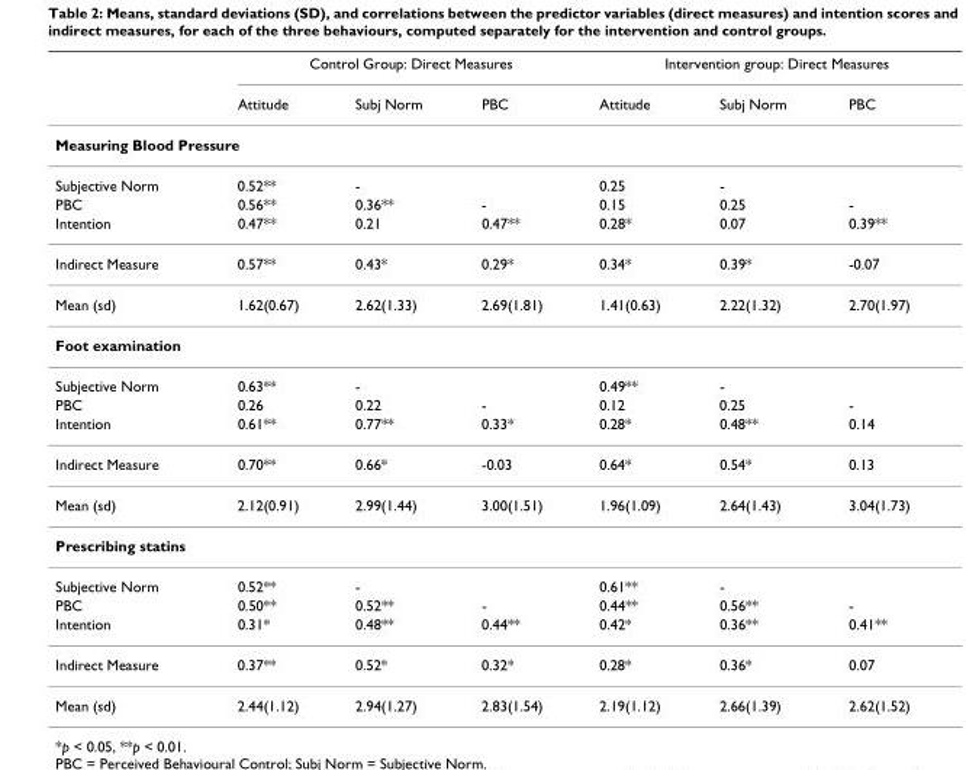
<table><thead><tr><td rowspan="2"></td><td colspan="3">Control Group: Direct Measures</td><td colspan="3">Intervention group: Direct Measures</td></tr><tr><td>Attitude</td><td>Subj Norm</td><td>PBC</td><td>Attitude</td><td>Subj Norm</td><td>PBC</td></tr></thead><tbody><tr><td colspan="7">Measuring Blood Pressure</td></tr><tr><td>Subjective Norm</td><td>0.52**</td><td>-</td><td></td><td>0.25</td><td>-</td><td></td></tr><tr><td>PBC</td><td>0.56**</td><td>0.36**</td><td>-</td><td>0.15</td><td>0.25</td><td>-</td></tr><tr><td>Intention</td><td>0.47**</td><td>0.21</td><td>0.47**</td><td>0.28*</td><td>0.07</td><td>0.39**</td></tr><tr><td>Indirect Measure</td><td>0.57**</td><td>0.43*</td><td>0.29*</td><td>0.34*</td><td>0.39*</td><td>-0.07</td></tr><tr><td>Mean (sd)</td><td>1.62(0.67)</td><td>2.62(1.33)</td><td>2.69(1.81)</td><td>1.41(0.63)</td><td>2.22(1.32)</td><td>2.70(1.97)</td></tr><tr><td colspan="7">Foot examination</td></tr><tr><td>Subjective Norm</td><td>0.63**</td><td>-</td><td></td><td>0.49**</td><td>-</td><td></td></tr><tr><td>PBC</td><td>0.26</td><td>0.22</td><td>-</td><td>0.12</td><td>0.25</td><td>-</td></tr><tr><td>Intention</td><td>0.61**</td><td>0.77**</td><td>0.33*</td><td>0.28*</td><td>0.48**</td><td>0.14</td></tr><tr><td>Indirect Measure</td><td>0.70**</td><td>0.66*</td><td>-0.03</td><td>0.64*</td><td>0.54*</td><td>0.13</td></tr><tr><td>Mean (sd)</td><td>2.12(0.91)</td><td>2.99(1.44)</td><td>3.00(1.51)</td><td>1.96(1.09)</td><td>2.64(1.43)</td><td>3.04(1.73)</td></tr><tr><td colspan="7">Prescribing statins</td></tr><tr><td>Subjective Norm</td><td>0.52**</td><td>-</td><td></td><td>0.61**</td><td>-</td><td></td></tr><tr><td>PBC</td><td>0.50**</td><td>0.52**</td><td>-</td><td>0.44**</td><td>0.56**</td><td>-</td></tr><tr><td>Intention</td><td>0.31*</td><td>0.48**</td><td>0.44**</td><td>0.42*</td><td>0.36**</td><td>0.41**</td></tr><tr><td>Indirect Measure</td><td>0.37**</td><td>0.52*</td><td>0.32*</td><td>0.28*</td><td>0.36*</td><td>0.07</td></tr><tr><td>Mean (sd)</td><td>2.44(1.12)</td><td>2.94(1.27)</td><td>2.83(1.54)</td><td>2.19(1.12)</td><td>2.66(1.39)</td><td>2.62(1.52)</td></tr></tbody></table>